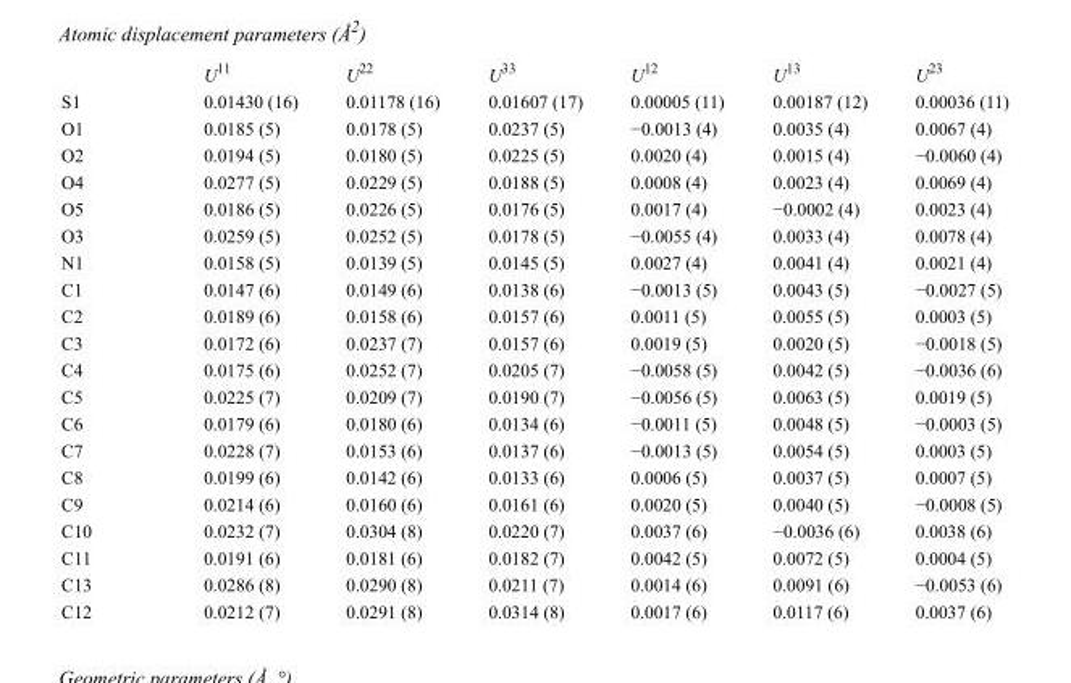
<table><thead><tr><td></td><td>U<sup>11</sup></td><td>U<sup>22</sup></td><td>U<sup>33</sup></td><td>U<sup>12</sup></td><td>U<sup>13</sup></td><td>U<sup>23</sup></td></tr></thead><tbody><tr><td>S1</td><td>0.01430 (16)</td><td>0.01178 (16)</td><td>0.01607 (17)</td><td>0.00005 (11)</td><td>0.00187 (12)</td><td>0.00036 (11)</td></tr><tr><td>O1</td><td>0.0185 (5)</td><td>0.0178 (5)</td><td>0.0237 (5)</td><td>−0.0013 (4)</td><td>0.0035 (4)</td><td>0.0067 (4)</td></tr><tr><td>O2</td><td>0.0194 (5)</td><td>0.0180 (5)</td><td>0.0225 (5)</td><td>0.0020 (4)</td><td>0.0015 (4)</td><td>−0.0060 (4)</td></tr><tr><td>O4</td><td>0.0277 (5)</td><td>0.0229 (5)</td><td>0.0188 (5)</td><td>0.0008 (4)</td><td>0.0023 (4)</td><td>0.0069 (4)</td></tr><tr><td>O5</td><td>0.0186 (5)</td><td>0.0226 (5)</td><td>0.0176 (5)</td><td>0.0017 (4)</td><td>−0.0002 (4)</td><td>0.0023 (4)</td></tr><tr><td>O3</td><td>0.0259 (5)</td><td>0.0252 (5)</td><td>0.0178 (5)</td><td>−0.0055 (4)</td><td>0.0033 (4)</td><td>0.0078 (4)</td></tr><tr><td>N1</td><td>0.0158 (5)</td><td>0.0139 (5)</td><td>0.0145 (5)</td><td>0.0027 (4)</td><td>0.0041 (4)</td><td>0.0021 (4)</td></tr><tr><td>C1</td><td>0.0147 (6)</td><td>0.0149 (6)</td><td>0.0138 (6)</td><td>−0.0013 (5)</td><td>0.0043 (5)</td><td>−0.0027 (5)</td></tr><tr><td>C2</td><td>0.0189 (6)</td><td>0.0158 (6)</td><td>0.0157 (6)</td><td>0.0011 (5)</td><td>0.0055 (5)</td><td>0.0003 (5)</td></tr><tr><td>C3</td><td>0.0172 (6)</td><td>0.0237 (7)</td><td>0.0157 (6)</td><td>0.0019 (5)</td><td>0.0020 (5)</td><td>−0.0018 (5)</td></tr><tr><td>C4</td><td>0.0175 (6)</td><td>0.0252 (7)</td><td>0.0205 (7)</td><td>−0.0058 (5)</td><td>0.0042 (5)</td><td>−0.0036 (6)</td></tr><tr><td>C5</td><td>0.0225 (7)</td><td>0.0209 (7)</td><td>0.0190 (7)</td><td>−0.0056 (5)</td><td>0.0063 (5)</td><td>0.0019 (5)</td></tr><tr><td>C6</td><td>0.0179 (6)</td><td>0.0180 (6)</td><td>0.0134 (6)</td><td>−0.0011 (5)</td><td>0.0048 (5)</td><td>−0.0003 (5)</td></tr><tr><td>C7</td><td>0.0228 (7)</td><td>0.0153 (6)</td><td>0.0137 (6)</td><td>−0.0013 (5)</td><td>0.0054 (5)</td><td>0.0003 (5)</td></tr><tr><td>C8</td><td>0.0199 (6)</td><td>0.0142 (6)</td><td>0.0133 (6)</td><td>0.0006 (5)</td><td>0.0037 (5)</td><td>0.0007 (5)</td></tr><tr><td>C9</td><td>0.0214 (6)</td><td>0.0160 (6)</td><td>0.0161 (6)</td><td>0.0020 (5)</td><td>0.0040 (5)</td><td>−0.0008 (5)</td></tr><tr><td>C10</td><td>0.0232 (7)</td><td>0.0304 (8)</td><td>0.0220 (7)</td><td>0.0037 (6)</td><td>−0.0036 (6)</td><td>0.0038 (6)</td></tr><tr><td>C11</td><td>0.0191 (6)</td><td>0.0181 (6)</td><td>0.0182 (7)</td><td>0.0042 (5)</td><td>0.0072 (5)</td><td>0.0004 (5)</td></tr><tr><td>C13</td><td>0.0286 (8)</td><td>0.0290 (8)</td><td>0.0211 (7)</td><td>0.0014 (6)</td><td>0.0091 (6)</td><td>−0.0053 (6)</td></tr><tr><td>C12</td><td>0.0212 (7)</td><td>0.0291 (8)</td><td>0.0314 (8)</td><td>0.0017 (6)</td><td>0.0117 (6)</td><td>0.0037 (6)</td></tr></tbody></table>